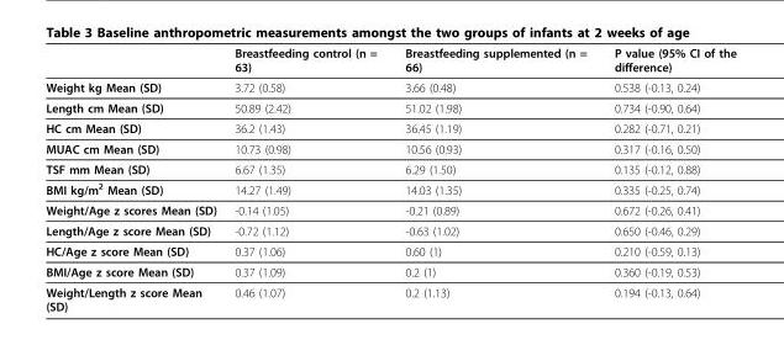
<table><thead><tr><td></td><td>Breastfeeding control (n = 63)</td><td>Breastfeeding supplemented (n = 66)</td><td>P value (95% CI of the difference)</td></tr></thead><tbody><tr><td>Weight kg Mean (SD)</td><td>3.72 (0.58)</td><td>3.66 (0.48)</td><td>0.538 (-0.13, 0.24)</td></tr><tr><td>Length cm Mean (SD)</td><td>50.89 (2.42)</td><td>51.02 (1.98)</td><td>0.734 (-0.90, 0.64)</td></tr><tr><td>HC cm Mean (SD)</td><td>36.2 (1.43)</td><td>36.45 (1.19)</td><td>0.282 (-0.71, 0.21)</td></tr><tr><td>MUAC cm Mean (SD)</td><td>10.73 (0.98)</td><td>10.56 (0.93)</td><td>0.317 (-0.16, 0.50)</td></tr><tr><td>TSF mm Mean (SD)</td><td>6.67 (1.35)</td><td>6.29 (1.50)</td><td>0.135 (-0.12, 0.88)</td></tr><tr><td>BMI kg/m<sup>2</sup> Mean (SD)</td><td>14.27 (1.49)</td><td>14.03 (1.35)</td><td>0.335 (-0.25, 0.74)</td></tr><tr><td>Weight/Age z scores Mean (SD)</td><td>-0.14 (1.05)</td><td>-0.21 (0.89)</td><td>0.672 (-0.26, 0.41)</td></tr><tr><td>Length/Age z score Mean (SD)</td><td>-0.72 (1.12)</td><td>-0.63 (1.02)</td><td>0.650 (-0.46, 0.29)</td></tr><tr><td>HC/Age z score Mean (SD)</td><td>0.37 (1.06)</td><td>0.60 (1)</td><td>0.210 (-0.59, 0.13)</td></tr><tr><td>BMI/Age z score Mean (SD)</td><td>0.37 (1.09)</td><td>0.2 (1)</td><td>0.360 (-0.19, 0.53)</td></tr><tr><td>Weight/Length z score Mean (SD)</td><td>0.46 (1.07)</td><td>0.2 (1.13)</td><td>0.194 (-0.13, 0.64)</td></tr></tbody></table>